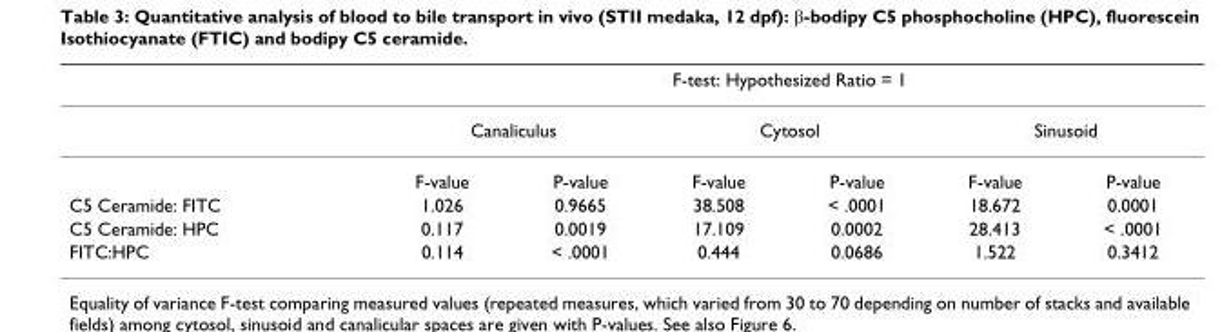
<table><thead><tr><td rowspan="3"></td><td colspan="6">F-test: Hypothesized Ratio = 1</td></tr><tr><td colspan="2">Canaliculus</td><td colspan="2">Cytosol</td><td colspan="2">Sinusoid</td></tr><tr><td>F-value</td><td>P-value</td><td>F-value</td><td>P-value</td><td>F-value</td><td>P-value</td></tr></thead><tbody><tr><td>C5 Ceramide: FITC</td><td>1.026</td><td>0.9665</td><td>38.508</td><td>&lt; .0001</td><td>18.672</td><td>0.0001</td></tr><tr><td>C5 Ceramide: HPC</td><td>0.117</td><td>0.0019</td><td>17.109</td><td>0.0002</td><td>28.413</td><td>&lt; .0001</td></tr><tr><td>FITC:HPC</td><td>0.114</td><td>&lt; .0001</td><td>0.444</td><td>0.0686</td><td>1.522</td><td>0.3412</td></tr></tbody></table>